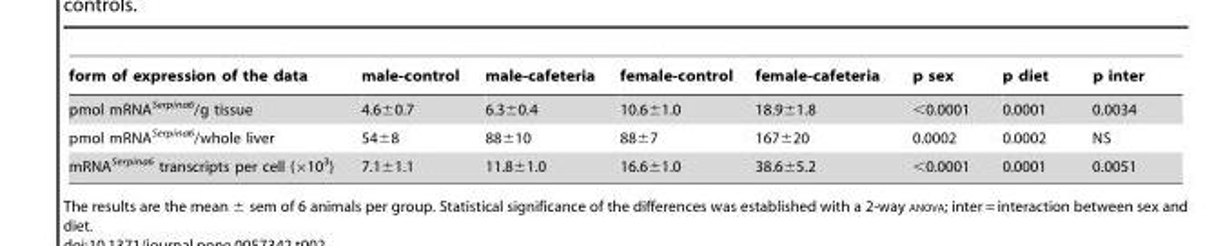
<table><thead><tr><td>form of expression of the data</td><td>male-control</td><td>male-cafeteria</td><td>female-control</td><td>female-cafeteria</td><td>p sex</td><td>p diet</td><td>p inter</td></tr></thead><tbody><tr><td>pmol mRNA<sup>Serpina6</sup>/g tissue</td><td>4.6±0.7</td><td>6.3±0.4</td><td>10.6±1.0</td><td>18.9±1.8</td><td>&lt;0.0001</td><td>0.0001</td><td>0.0034</td></tr><tr><td>pmol mRNA<sup>Serpina6</sup>/whole liver</td><td>54±8</td><td>88±10</td><td>88±7</td><td>167±20</td><td>0.0002</td><td>0.0002</td><td>NS</td></tr><tr><td>mRNA<sup>Serpina6</sup> transcripts per cell (×10<sup>3</sup>)</td><td>7.1±1.1</td><td>11.8±1.0</td><td>16.6±1.0</td><td>38.6±5.2</td><td>&lt;0.0001</td><td>0.0001</td><td>0.0051</td></tr></tbody></table>